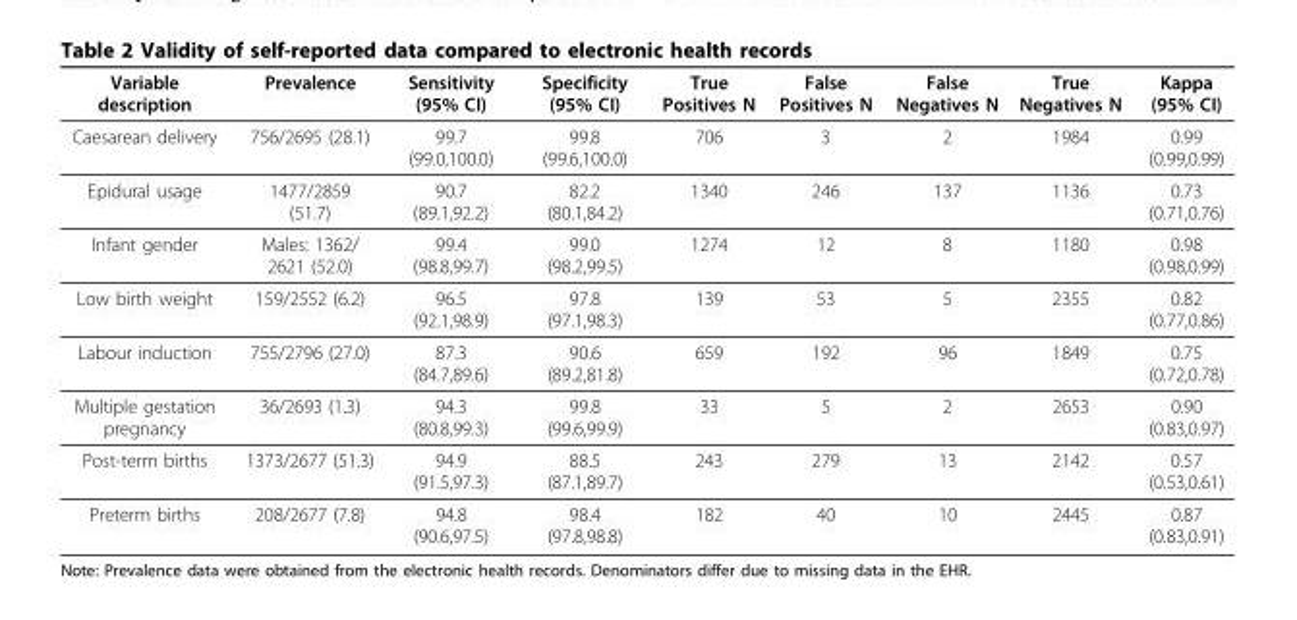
<table><thead><tr><td>Variable description</td><td>Prevalence</td><td>Sensitivity (95% CI)</td><td>Specificity (95% CI)</td><td>True Positives N</td><td>False Positives N</td><td>False Negatives N</td><td>True Negatives N</td><td>Kappa (95% CI)</td></tr></thead><tbody><tr><td>Caesarean delivery</td><td>756/2695 (28.1)</td><td>99.7 (99.0,100.0)</td><td>99.8 (99.6,100.0)</td><td>706</td><td>3</td><td>2</td><td>1984</td><td>0.99 (0.99,0.99)</td></tr><tr><td>Epidural usage</td><td>1477/2859 (51.7)</td><td>90.7 (89.1,92.2)</td><td>82.2 (80.1,84.2)</td><td>1340</td><td>246</td><td>137</td><td>1136</td><td>0.73 (0.71,0.76)</td></tr><tr><td>Infant gender</td><td>Males: 1362/ 2621 (52.0)</td><td>99.4 (98.8,99.7)</td><td>99.0 (98.2,99.5)</td><td>1274</td><td>12</td><td>8</td><td>1180</td><td>0.98 (0.98,0.99)</td></tr><tr><td>Low birth weight</td><td>159/2552 (6.2)</td><td>96.5 (92.1,98.9)</td><td>97.8 (97.1,98.3)</td><td>139</td><td>53</td><td>5</td><td>2355</td><td>0.82 (0.77,0.86)</td></tr><tr><td>Labour induction</td><td>755/2796 (27.0)</td><td>87.3 (84.7,89.6)</td><td>90.6 (89.2,81.8)</td><td>659</td><td>192</td><td>96</td><td>1849</td><td>0.75 (0.72,0.78)</td></tr><tr><td>Multiple gestation pregnancy</td><td>36/2693 (1.3)</td><td>94.3 (80.8,99.3)</td><td>99.8 (99.6,99.9)</td><td>33</td><td>5</td><td>2</td><td>2653</td><td>0.90 (0.83,0.97)</td></tr><tr><td>Post-term births</td><td>1373/2677 (51.3)</td><td>94.9 (91.5,97.3)</td><td>88.5 (87.1,89.7)</td><td>243</td><td>279</td><td>13</td><td>2142</td><td>0.57 (0.53,0.61)</td></tr><tr><td>Preterm births</td><td>208/2677 (7.8)</td><td>94.8 (90.6,97.5)</td><td>98.4 (97.8,98.8)</td><td>182</td><td>40</td><td>10</td><td>2445</td><td>0.87 (0.83,0.91)</td></tr></tbody></table>